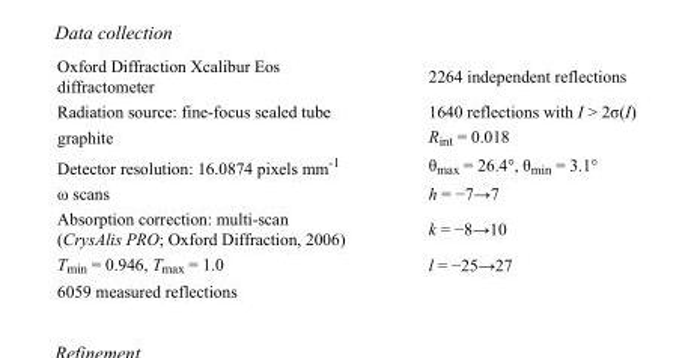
<table><tbody><tr><td>Oxford Diffraction Xcalibur Eos diffractometer</td><td>2264 independent reflections</td></tr><tr><td>Radiation source: fine-focus sealed tube</td><td>1640 reflections with I &gt; 2σ(I)</td></tr><tr><td>graphite</td><td>R<sub>int</sub> = 0.018</td></tr><tr><td>Detector resolution: 16.0874 pixels mm<sup>-1</sup></td><td>θ<sub>max</sub> = 26.4°, θ<sub>min</sub> = 3.1°</td></tr><tr><td>ω scans</td><td>h = −7→7</td></tr><tr><td>Absorption correction: multi-scan (CrysAlis PRO; Oxford Diffraction, 2006)</td><td>k = −8→10</td></tr><tr><td>T<sub>min</sub> = 0.946, T<sub>max</sub> = 1.0</td><td>l = −25→27</td></tr><tr><td>6059 measured reflections</td><td></td></tr></tbody></table>